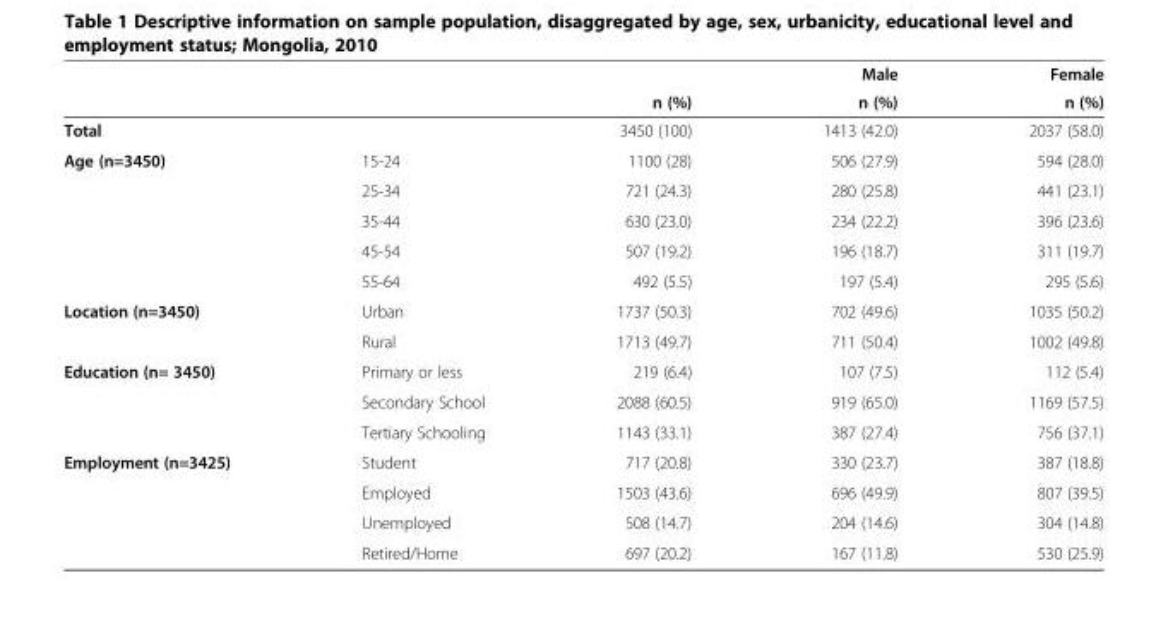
<table><thead><tr><td rowspan="2"></td><td rowspan="2"></td><td rowspan="2">n (%)</td><td rowspan="2">Male n (%)</td><td rowspan="2">Female n (%)</td></tr><tr></tr></thead><tbody><tr><td>Total</td><td></td><td>3450 (100)</td><td>1413 (42.0)</td><td>2037 (58.0)</td></tr><tr><td rowspan="5">Age (n=3450)</td><td>15-24</td><td>1100 (28)</td><td>506 (27.9)</td><td>594 (28.0)</td></tr><tr><td>25-34</td><td>721 (24.3)</td><td>280 (25.8)</td><td>441 (23.1)</td></tr><tr><td>35-44</td><td>630 (23.0)</td><td>234 (22.2)</td><td>396 (23.6)</td></tr><tr><td>45-54</td><td>507 (19.2)</td><td>196 (18.7)</td><td>311 (19.7)</td></tr><tr><td>55-64</td><td>492 (5.5)</td><td>197 (5.4)</td><td>295 (5.6)</td></tr><tr><td rowspan="2">Location (n=3450)</td><td>Urban</td><td>1737 (50.3)</td><td>702 (49.6)</td><td>1035 (50.2)</td></tr><tr><td>Rural</td><td>1713 (49.7)</td><td>711 (50.4)</td><td>1002 (49.8)</td></tr><tr><td rowspan="3">Education (n= 3450)</td><td>Primary or less</td><td>219 (6.4)</td><td>107 (7.5)</td><td>112 (5.4)</td></tr><tr><td>Secondary School</td><td>2088 (60.5)</td><td>919 (65.0)</td><td>1169 (57.5)</td></tr><tr><td>Tertiary Schooling</td><td>1143 (33.1)</td><td>387 (27.4)</td><td>756 (37.1)</td></tr><tr><td rowspan="4">Employment (n=3425)</td><td>Student</td><td>717 (20.8)</td><td>330 (23.7)</td><td>387 (18.8)</td></tr><tr><td>Employed</td><td>1503 (43.6)</td><td>696 (49.9)</td><td>807 (39.5)</td></tr><tr><td>Unemployed</td><td>508 (14.7)</td><td>204 (14.6)</td><td>304 (14.8)</td></tr><tr><td>Retired/Home</td><td>697 (20.2)</td><td>167 (11.8)</td><td>530 (25.9)</td></tr></tbody></table>